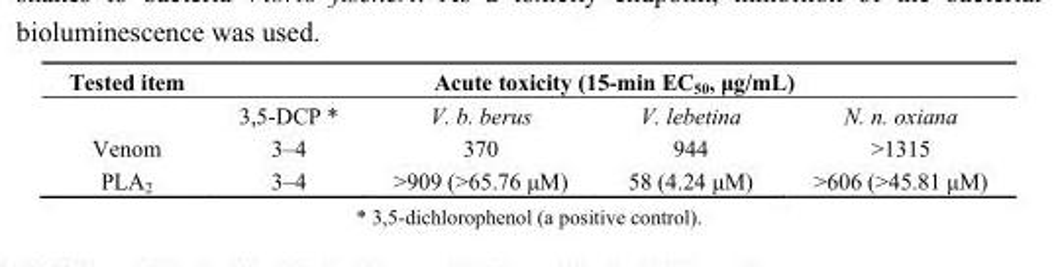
<table><thead><tr><td rowspan="2">Tested item</td><td colspan="4">Acute toxicity (15-min EC<sub>50</sub>, μg/mL)</td></tr><tr><td>3,5-DCP *</td><td>V. b. berus</td><td>V. lebetina</td><td>N. n. oxiana</td></tr></thead><tbody><tr><td>Venom</td><td>3–4</td><td>370</td><td>944</td><td>&gt;1315</td></tr><tr><td>PLA<sub>2</sub></td><td>3–4</td><td>&gt;909 (&gt;65.76 μM)</td><td>58 (4.24 μM)</td><td>&gt;606 (&gt;45.81 μM)</td></tr></tbody></table>